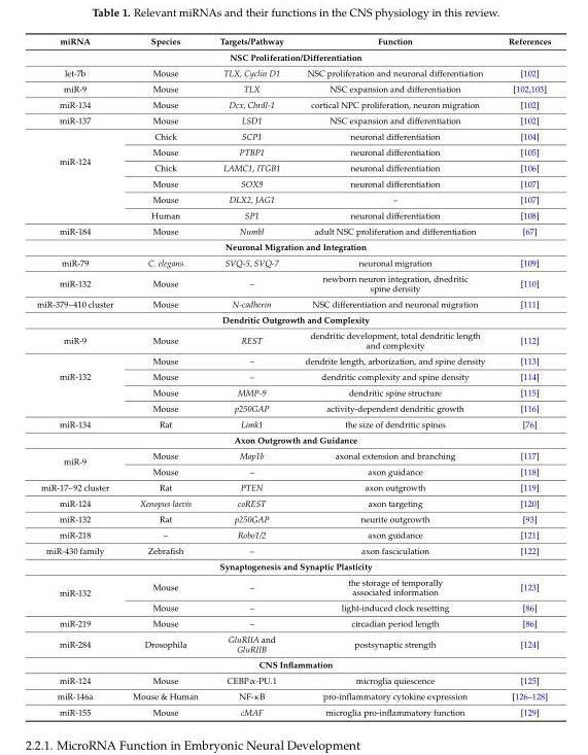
<table><thead><tr><td>miRNA</td><td>Species</td><td>Targets/Pathway</td><td>Function</td><td>References</td></tr></thead><tbody><tr><td colspan="5">NSC Proliferation/Differentiation</td></tr><tr><td>let-7b</td><td>Mouse</td><td>TLX, Cyclin D1</td><td>NSC proliferation and neuronal differentiation</td><td>[102]</td></tr><tr><td>miR-9</td><td>Mouse</td><td>TLX</td><td>NSC expansion and differentiation</td><td>[102,103]</td></tr><tr><td>miR-134</td><td>Mouse</td><td>Dcx, Chrdl-1</td><td>cortical NPC proliferation, neuron migration</td><td>[102]</td></tr><tr><td>miR-137</td><td>Mouse</td><td>LSD1</td><td>NSC expansion and differentiation</td><td>[102]</td></tr><tr><td rowspan="6">miR-124</td><td>Chick</td><td>SCP1</td><td>neuronal differentiation</td><td>[104]</td></tr><tr><td>Mouse</td><td>PTBP1</td><td>neuronal differentiation</td><td>[105]</td></tr><tr><td>Chick</td><td>LAMC1, ITGB1</td><td>neuronal differentiation</td><td>[106]</td></tr><tr><td>Mouse</td><td>SOX9</td><td>neuronal differentiation</td><td>[107]</td></tr><tr><td>Mouse</td><td>DLX2, JAG1</td><td>–</td><td>[107]</td></tr><tr><td>Human</td><td>SP1</td><td>neuronal differentiation</td><td>[108]</td></tr><tr><td>miR-184</td><td>Mouse</td><td>Numbl</td><td>adult NSC proliferation and differentiation</td><td>[67]</td></tr><tr><td colspan="5">Neuronal Migration and Integration</td></tr><tr><td>miR-79</td><td>C. elegans</td><td>SVQ-5, SVQ-7</td><td>neuronal migration</td><td>[109]</td></tr><tr><td>miR-132</td><td>Mouse</td><td>–</td><td>newborn neuron integration, dnedritic spine density</td><td>[110]</td></tr><tr><td>miR-379~410 cluster</td><td>Mouse</td><td>N-cadherin</td><td>NSC differentiation and neuronal migration</td><td>[111]</td></tr><tr><td colspan="5">Dendritic Outgrowth and Complexity</td></tr><tr><td>miR-9</td><td>Mouse</td><td>REST</td><td>dendritic development, total dendritic length and complexity</td><td>[112]</td></tr><tr><td rowspan="4">miR-132</td><td>Mouse</td><td>–</td><td>dendrite length, arborization, and spine density</td><td>[113]</td></tr><tr><td>Mouse</td><td>–</td><td>dendritic complexity and spine density</td><td>[114]</td></tr><tr><td>Mouse</td><td>MMP-9</td><td>dendritic spine structure</td><td>[115]</td></tr><tr><td>Mouse</td><td>p250GAP</td><td>activity-dependent dendritic growth</td><td>[116]</td></tr><tr><td>miR-134</td><td>Rat</td><td>Limk1</td><td>the size of dendritic spines</td><td>[76]</td></tr><tr><td colspan="5">Axon Outgrowth and Guidance</td></tr><tr><td rowspan="2">miR-9</td><td>Mouse</td><td>Map1b</td><td>axonal extension and branching</td><td>[117]</td></tr><tr><td>Mouse</td><td>–</td><td>axon guidance</td><td>[118]</td></tr><tr><td>miR-17~92 cluster</td><td>Rat</td><td>PTEN</td><td>axon outgrowth</td><td>[119]</td></tr><tr><td>miR-124</td><td>Xenopus laevis</td><td>coREST</td><td>axon targeting</td><td>[120]</td></tr><tr><td>miR-132</td><td>Rat</td><td>p250GAP</td><td>neurite outgrowth</td><td>[93]</td></tr><tr><td>miR-218</td><td>–</td><td>Robo1/2</td><td>axon guidance</td><td>[121]</td></tr><tr><td>miR-430 family</td><td>Zebrafish</td><td>–</td><td>axon fasciculation</td><td>[122]</td></tr><tr><td colspan="5">Synaptogenesis and Synaptic Plasticity</td></tr><tr><td rowspan="2">miR-132</td><td>Mouse</td><td>–</td><td>the storage of temporally associated information</td><td>[123]</td></tr><tr><td>Mouse</td><td>–</td><td>light-induced clock resetting</td><td>[86]</td></tr><tr><td>miR-219</td><td>Mouse</td><td>–</td><td>circadian period length</td><td>[86]</td></tr><tr><td>miR-284</td><td>Drosophila</td><td>GluRIIA and GluRIIB</td><td>postsynaptic strength</td><td>[124]</td></tr><tr><td colspan="5">CNS Inflammation</td></tr><tr><td>miR-124</td><td>Mouse</td><td>CEBPα-PU.1</td><td>microglia quiescence</td><td>[125]</td></tr><tr><td>miR-146a</td><td>Mouse &amp; Human</td><td>NF-κB</td><td>pro-inflammatory cytokine expression</td><td>[126–128]</td></tr><tr><td>miR-155</td><td>Mouse</td><td>cMAF</td><td>microglia pro-inflammatory function</td><td>[129]</td></tr></tbody></table>